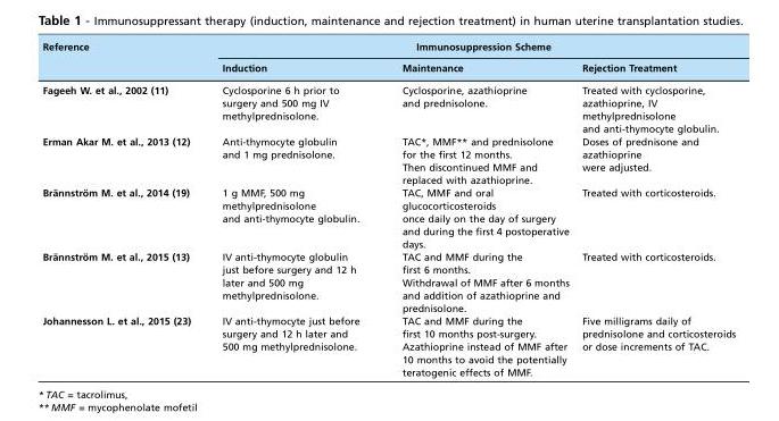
<table><thead><tr><td rowspan="2">Reference</td><td colspan="3">Immunosuppression Scheme</td></tr><tr><td>Induction</td><td>Maintenance</td><td>Rejection Treatment</td></tr></thead><tbody><tr><td>Fageeh W. et al., 2002 (11)</td><td>Cyclosporine 6 h prior to surgery and 500 mg IV methylprednisolone.</td><td>Cyclosporine, azathioprine and prednisolone.</td><td>Treated with cyclosporine, azathioprine, IV methylprednisolone and anti-thymocyte globulin.</td></tr><tr><td>Erman Akar M. et al., 2013 (12)</td><td>Anti-thymocyte globulin and 1 mg prednisolone.</td><td>TAC*, MMF** and prednisolone for the first 12 months. Then discontinued MMF and replaced with azathioprine.</td><td>Doses of prednisone and azathioprine were adjusted.</td></tr><tr><td>Bra¨nnstro¨ m M. et al., 2014 (19)</td><td>1 g MMF, 500 mg methylprednisolone and anti-thymocyte globulin.</td><td>TAC, MMF and oral glucocorticosteroids once daily on the day of surgery and during the first 4 postoperative days.</td><td>Treated with corticosteroids.</td></tr><tr><td>Bra¨nnstro¨ m M. et al., 2015 (13)</td><td>IV anti-thymocyte globulin just before surgery and 12 h later and 500 mg methylprednisolone.</td><td>TAC and MMF during the first 6 months. Withdrawal of MMF after 6 months and addition of azathioprine and prednisolone.</td><td>Treated with corticosteroids.</td></tr><tr><td>Johannesson L. et al., 2015 (23)</td><td>IV anti-thymocyte just before surgery and 12 h later and 500 mg methylprednisolone.</td><td>TAC and MMF during the first 10 months post-surgery. Azathioprine instead of MMF after 10 months to avoid the potentially teratogenic effects of MMF.</td><td>Five milligrams daily of prednisolone and corticosteroids or dose increments of TAC.</td></tr></tbody></table>